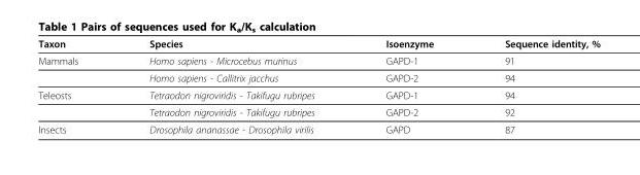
<table><thead><tr><td>Taxon</td><td>Species</td><td>Isoenzyme</td><td>Sequence identity, %</td></tr></thead><tbody><tr><td rowspan="2">Mammals</td><td>Homo sapiens - Microcebus murinus</td><td>GAPD-1</td><td>91</td></tr><tr><td>Homo sapiens - Callitrix jacchus</td><td>GAPD-2</td><td>94</td></tr><tr><td rowspan="2">Teleosts</td><td>Tetraodon nigroviridis - Takifugu rubripes</td><td>GAPD-1</td><td>94</td></tr><tr><td>Tetraodon nigroviridis - Takifugu rubripes</td><td>GAPD-2</td><td>92</td></tr><tr><td>Insects</td><td>Drosophila ananassae - Drosophila virilis</td><td>GAPD</td><td>87</td></tr></tbody></table>